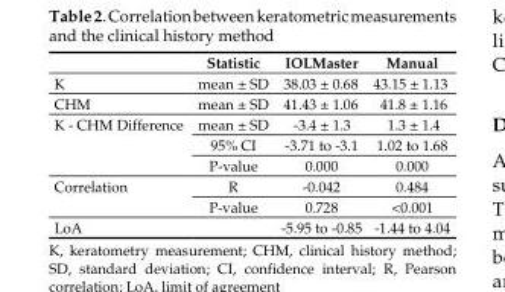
<table><thead><tr><td></td><td>Statistic</td><td>IOLMaster</td><td>Manual</td></tr></thead><tbody><tr><td>K</td><td>mean ± SD</td><td>38.03 ± 0.68</td><td>43.15 ± 1.13</td></tr><tr><td>CHM</td><td>mean ± SD</td><td>41.43 ± 1.06</td><td>41.8 ± 1.16</td></tr><tr><td rowspan="3">K - CHM Difference</td><td>mean ± SD</td><td>-3.4 ± 1.3</td><td>1.3 ± 1.4</td></tr><tr><td>95% CI</td><td>-3.71 to -3.1</td><td>1.02 to 1.68</td></tr><tr><td>P-value</td><td>0.000</td><td>0.000</td></tr><tr><td rowspan="2">Correlation</td><td>R</td><td>-0.042</td><td>0.484</td></tr><tr><td>P-value</td><td>0.728</td><td>&lt;0.001</td></tr><tr><td>LoA</td><td></td><td>-5.95 to -0.85</td><td>-1.44 to 4.04</td></tr></tbody></table>